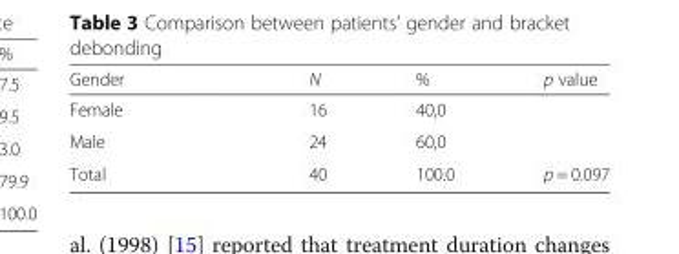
<table><thead><tr><td>Gender</td><td>N</td><td>%</td><td>p value</td></tr></thead><tbody><tr><td>Female</td><td>16</td><td>40,0</td><td></td></tr><tr><td>Male</td><td>24</td><td>60,0</td><td></td></tr><tr><td>Total</td><td>40</td><td>100.0</td><td>p = 0.097</td></tr></tbody></table>